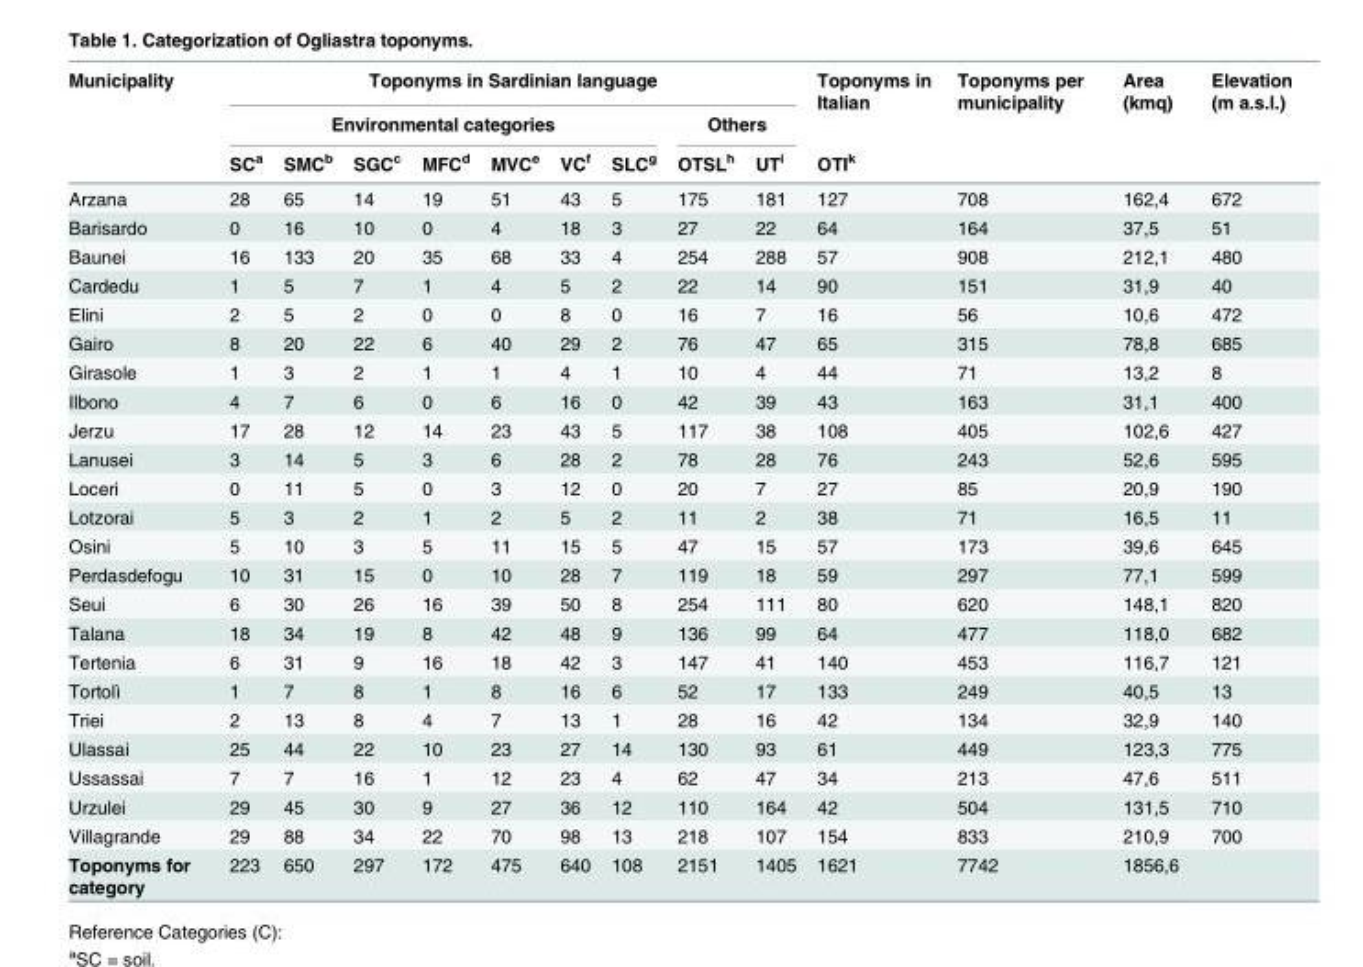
<table><thead><tr><td rowspan="3">Municipality</td><td colspan="9">Toponyms in Sardinian language</td><td rowspan="3">Toponyms in Italian OTI<sup>k</sup></td><td rowspan="3">Toponyms per municipality</td><td rowspan="3">Area (kmq)</td><td rowspan="3">Elevation (m a.s.l.)</td></tr><tr><td colspan="7">Environmental categories</td><td colspan="2">Others</td></tr><tr><td>SC<sup>a</sup></td><td>SMC<sup>b</sup></td><td>SGC<sup>c</sup></td><td>MFC<sup>d</sup></td><td>MVC<sup>e</sup></td><td>VC<sup>f</sup></td><td>SLC<sup>g</sup></td><td>OTSL<sup>h</sup></td><td>UT<sup>i</sup></td></tr></thead><tbody><tr><td>Arzana</td><td>28</td><td>65</td><td>14</td><td>19</td><td>51</td><td>43</td><td>5</td><td>175</td><td>181</td><td>127</td><td>708</td><td>162,4</td><td>672</td></tr><tr><td>Barisardo</td><td>0</td><td>16</td><td>10</td><td>0</td><td>4</td><td>18</td><td>3</td><td>27</td><td>22</td><td>64</td><td>164</td><td>37,5</td><td>51</td></tr><tr><td>Baunei</td><td>16</td><td>133</td><td>20</td><td>35</td><td>68</td><td>33</td><td>4</td><td>254</td><td>288</td><td>57</td><td>908</td><td>212,1</td><td>480</td></tr><tr><td>Cardedu</td><td>1</td><td>5</td><td>7</td><td>1</td><td>4</td><td>5</td><td>2</td><td>22</td><td>14</td><td>90</td><td>151</td><td>31,9</td><td>40</td></tr><tr><td>Elini</td><td>2</td><td>5</td><td>2</td><td>0</td><td>0</td><td>8</td><td>0</td><td>16</td><td>7</td><td>16</td><td>56</td><td>10,6</td><td>472</td></tr><tr><td>Gairo</td><td>8</td><td>20</td><td>22</td><td>6</td><td>40</td><td>29</td><td>2</td><td>76</td><td>47</td><td>65</td><td>315</td><td>78,8</td><td>685</td></tr><tr><td>Girasole</td><td>1</td><td>3</td><td>2</td><td>1</td><td>1</td><td>4</td><td>1</td><td>10</td><td>4</td><td>44</td><td>71</td><td>13,2</td><td>8</td></tr><tr><td>Ilbono</td><td>4</td><td>7</td><td>6</td><td>0</td><td>6</td><td>16</td><td>0</td><td>42</td><td>39</td><td>43</td><td>163</td><td>31,1</td><td>400</td></tr><tr><td>Jerzu</td><td>17</td><td>28</td><td>12</td><td>14</td><td>23</td><td>43</td><td>5</td><td>117</td><td>38</td><td>108</td><td>405</td><td>102,6</td><td>427</td></tr><tr><td>Lanusei</td><td>3</td><td>14</td><td>5</td><td>3</td><td>6</td><td>28</td><td>2</td><td>78</td><td>28</td><td>76</td><td>243</td><td>52,6</td><td>595</td></tr><tr><td>Loceri</td><td>0</td><td>11</td><td>5</td><td>0</td><td>3</td><td>12</td><td>0</td><td>20</td><td>7</td><td>27</td><td>85</td><td>20,9</td><td>190</td></tr><tr><td>Lotzorai</td><td>5</td><td>3</td><td>2</td><td>1</td><td>2</td><td>5</td><td>2</td><td>11</td><td>2</td><td>38</td><td>71</td><td>16,5</td><td>11</td></tr><tr><td>Osini</td><td>5</td><td>10</td><td>3</td><td>5</td><td>11</td><td>15</td><td>5</td><td>47</td><td>15</td><td>57</td><td>173</td><td>39,6</td><td>645</td></tr><tr><td>Perdasdefogu</td><td>10</td><td>31</td><td>15</td><td>0</td><td>10</td><td>28</td><td>7</td><td>119</td><td>18</td><td>59</td><td>297</td><td>77,1</td><td>599</td></tr><tr><td>Seui</td><td>6</td><td>30</td><td>26</td><td>16</td><td>39</td><td>50</td><td>8</td><td>254</td><td>111</td><td>80</td><td>620</td><td>148,1</td><td>820</td></tr><tr><td>Talana</td><td>18</td><td>34</td><td>19</td><td>8</td><td>42</td><td>48</td><td>9</td><td>136</td><td>99</td><td>64</td><td>477</td><td>118,0</td><td>682</td></tr><tr><td>Tertenia</td><td>6</td><td>31</td><td>9</td><td>16</td><td>18</td><td>42</td><td>3</td><td>147</td><td>41</td><td>140</td><td>453</td><td>116,7</td><td>121</td></tr><tr><td>Tortolì</td><td>1</td><td>7</td><td>8</td><td>1</td><td>8</td><td>16</td><td>6</td><td>52</td><td>17</td><td>133</td><td>249</td><td>40,5</td><td>13</td></tr><tr><td>Triei</td><td>2</td><td>13</td><td>8</td><td>4</td><td>7</td><td>13</td><td>1</td><td>28</td><td>16</td><td>42</td><td>134</td><td>32,9</td><td>140</td></tr><tr><td>Ulassai</td><td>25</td><td>44</td><td>22</td><td>10</td><td>23</td><td>27</td><td>14</td><td>130</td><td>93</td><td>61</td><td>449</td><td>123,3</td><td>775</td></tr><tr><td>Ussassai</td><td>7</td><td>7</td><td>16</td><td>1</td><td>12</td><td>23</td><td>4</td><td>62</td><td>47</td><td>34</td><td>213</td><td>47,6</td><td>511</td></tr><tr><td>Urzulei</td><td>29</td><td>45</td><td>30</td><td>9</td><td>27</td><td>36</td><td>12</td><td>110</td><td>164</td><td>42</td><td>504</td><td>131,5</td><td>710</td></tr><tr><td>Villagrande</td><td>29</td><td>88</td><td>34</td><td>22</td><td>70</td><td>98</td><td>13</td><td>218</td><td>107</td><td>154</td><td>833</td><td>210,9</td><td>700</td></tr><tr><td>Toponyms for category</td><td>223</td><td>650</td><td>297</td><td>172</td><td>475</td><td>640</td><td>108</td><td>2151</td><td>1405</td><td>1621</td><td>7742</td><td>1856,6</td><td></td></tr></tbody></table>